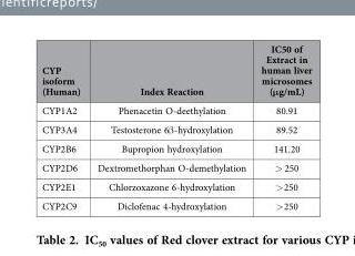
<table><thead><tr><td>CYP isoform (Human)</td><td>Index Reaction</td><td>IC50 of Extract in human liver microsomes (μg/mL)</td></tr></thead><tbody><tr><td>CYP1A2</td><td>Phenacetin O-deethylation</td><td>80.91</td></tr><tr><td>CYP3A4</td><td>Testosterone 6β -hydroxylation</td><td>89.52</td></tr><tr><td>CYP2B6</td><td>Bupropion hydroxylation</td><td>141.20</td></tr><tr><td>CYP2D6</td><td>Dextromethorphan O-demethylation</td><td>&gt; 250</td></tr><tr><td>CYP2E1</td><td>Chlorzoxazone 6-hydroxylation</td><td>&gt; 250</td></tr><tr><td>CYP2C9</td><td>Diclofenac 4-hydroxylation</td><td>&gt; 250</td></tr></tbody></table>